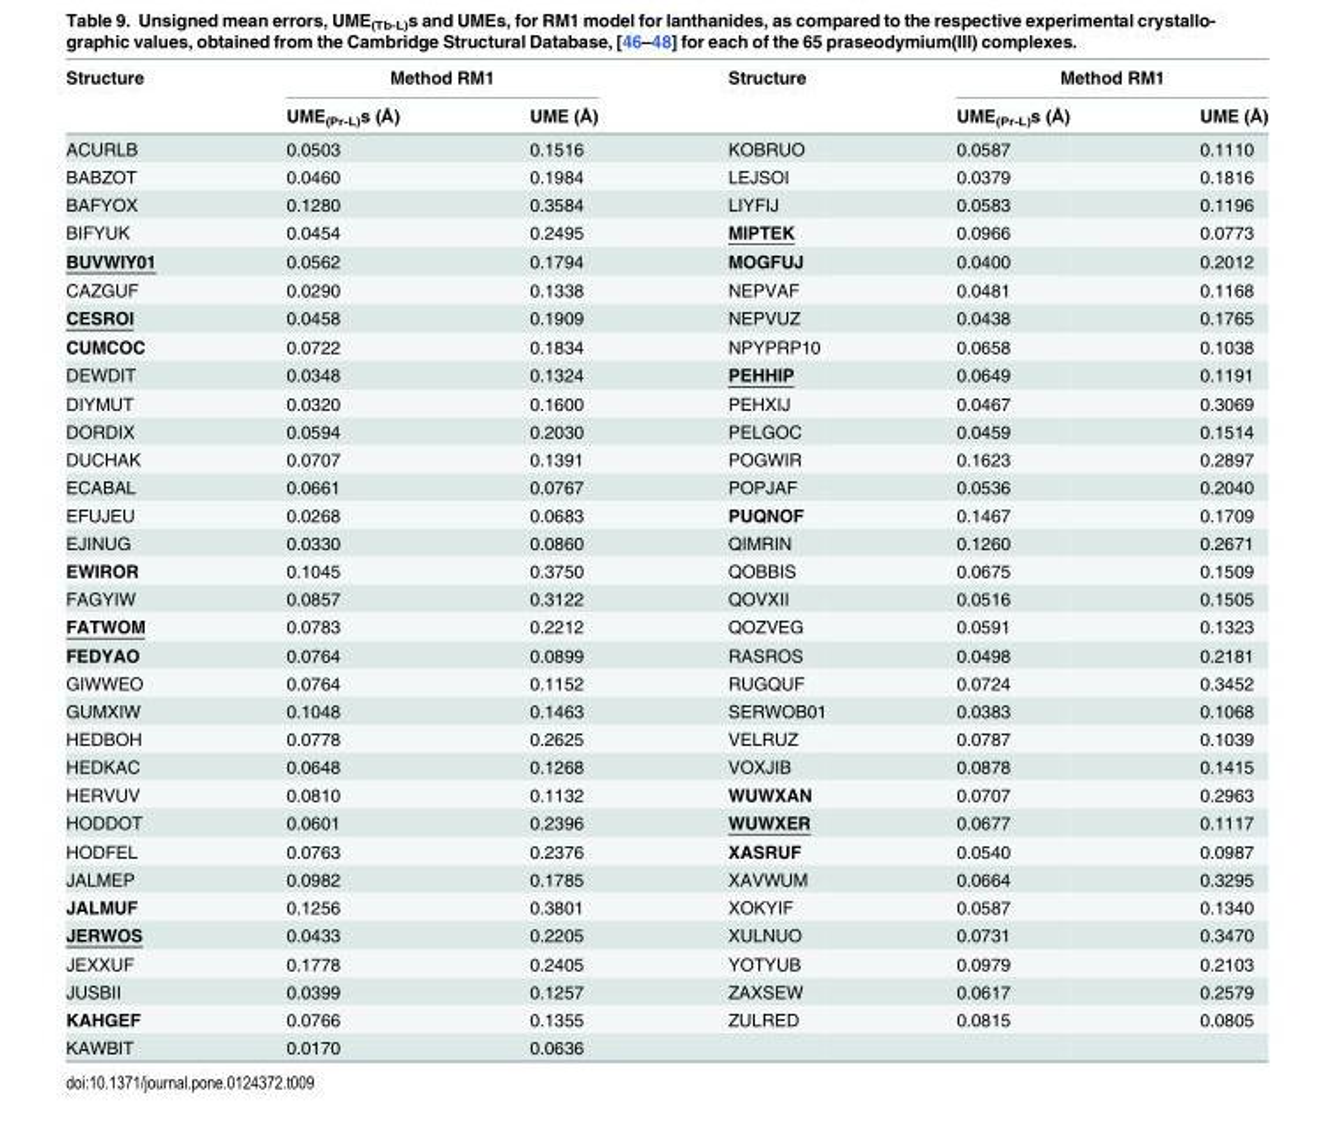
<table><thead><tr><td rowspan="2">Structure</td><td colspan="2">Method RM1</td><td rowspan="2">Structure</td><td colspan="2">Method RM1</td></tr><tr><td>UME<sub>(Pr-L)</sub>s (Å)</td><td>UME (Å)</td><td>UME<sub>(Pr-L)</sub>s (Å)</td><td>UME (Å)</td></tr></thead><tbody><tr><td>ACURLB</td><td>0.0503</td><td>0.1516</td><td>KOBRUO</td><td>0.0587</td><td>0.1110</td></tr><tr><td>BABZOT</td><td>0.0460</td><td>0.1984</td><td>LEJSOI</td><td>0.0379</td><td>0.1816</td></tr><tr><td>BAFYOX</td><td>0.1280</td><td>0.3584</td><td>LIYFIJ</td><td>0.0583</td><td>0.1196</td></tr><tr><td>BIFYUK</td><td>0.0454</td><td>0.2495</td><td>MIPTEK</td><td>0.0966</td><td>0.0773</td></tr><tr><td>BUVWIY01</td><td>0.0562</td><td>0.1794</td><td>MOGFUJ</td><td>0.0400</td><td>0.2012</td></tr><tr><td>CAZGUF</td><td>0.0290</td><td>0.1338</td><td>NEPVAF</td><td>0.0481</td><td>0.1168</td></tr><tr><td>CESROI</td><td>0.0458</td><td>0.1909</td><td>NEPVUZ</td><td>0.0438</td><td>0.1765</td></tr><tr><td>CUMCOC</td><td>0.0722</td><td>0.1834</td><td>NPYPRP10</td><td>0.0658</td><td>0.1038</td></tr><tr><td>DEWDIT</td><td>0.0348</td><td>0.1324</td><td>PEHHIP</td><td>0.0649</td><td>0.1191</td></tr><tr><td>DIYMUT</td><td>0.0320</td><td>0.1600</td><td>PEHXIJ</td><td>0.0467</td><td>0.3069</td></tr><tr><td>DORDIX</td><td>0.0594</td><td>0.2030</td><td>PELGOC</td><td>0.0459</td><td>0.1514</td></tr><tr><td>DUCHAK</td><td>0.0707</td><td>0.1391</td><td>POGWIR</td><td>0.1623</td><td>0.2897</td></tr><tr><td>ECABAL</td><td>0.0661</td><td>0.0767</td><td>POPJAF</td><td>0.0536</td><td>0.2040</td></tr><tr><td>EFUJEU</td><td>0.0268</td><td>0.0683</td><td>PUQNOF</td><td>0.1467</td><td>0.1709</td></tr><tr><td>EJINUG</td><td>0.0330</td><td>0.0860</td><td>QIMRIN</td><td>0.1260</td><td>0.2671</td></tr><tr><td>EWIROR</td><td>0.1045</td><td>0.3750</td><td>QOBBIS</td><td>0.0675</td><td>0.1509</td></tr><tr><td>FAGYIW</td><td>0.0857</td><td>0.3122</td><td>QOVXII</td><td>0.0516</td><td>0.1505</td></tr><tr><td>FATWOM</td><td>0.0783</td><td>0.2212</td><td>QOZVEG</td><td>0.0591</td><td>0.1323</td></tr><tr><td>FEDYAO</td><td>0.0764</td><td>0.0899</td><td>RASROS</td><td>0.0498</td><td>0.2181</td></tr><tr><td>GIWWEO</td><td>0.0764</td><td>0.1152</td><td>RUGQUF</td><td>0.0724</td><td>0.3452</td></tr><tr><td>GUMXIW</td><td>0.1048</td><td>0.1463</td><td>SERWOB01</td><td>0.0383</td><td>0.1068</td></tr><tr><td>HEDBOH</td><td>0.0778</td><td>0.2625</td><td>VELRUZ</td><td>0.0787</td><td>0.1039</td></tr><tr><td>HEDKAC</td><td>0.0648</td><td>0.1268</td><td>VOXJIB</td><td>0.0878</td><td>0.1415</td></tr><tr><td>HERVUV</td><td>0.0810</td><td>0.1132</td><td>WUWXAN</td><td>0.0707</td><td>0.2963</td></tr><tr><td>HODDOT</td><td>0.0601</td><td>0.2396</td><td>WUWXER</td><td>0.0677</td><td>0.1117</td></tr><tr><td>HODFEL</td><td>0.0763</td><td>0.2376</td><td>XASRUF</td><td>0.0540</td><td>0.0987</td></tr><tr><td>JALMEP</td><td>0.0982</td><td>0.1785</td><td>XAVWUM</td><td>0.0664</td><td>0.3295</td></tr><tr><td>JALMUF</td><td>0.1256</td><td>0.3801</td><td>XOKYIF</td><td>0.0587</td><td>0.1340</td></tr><tr><td>JERWOS</td><td>0.0433</td><td>0.2205</td><td>XULNUO</td><td>0.0731</td><td>0.3470</td></tr><tr><td>JEXXUF</td><td>0.1778</td><td>0.2405</td><td>YOTYUB</td><td>0.0979</td><td>0.2103</td></tr><tr><td>JUSBII</td><td>0.0399</td><td>0.1257</td><td>ZAXSEW</td><td>0.0617</td><td>0.2579</td></tr><tr><td>KAHGEF</td><td>0.0766</td><td>0.1355</td><td>ZULRED</td><td>0.0815</td><td>0.0805</td></tr><tr><td>KAWBIT</td><td>0.0170</td><td>0.0636</td><td></td><td></td><td></td></tr></tbody></table>